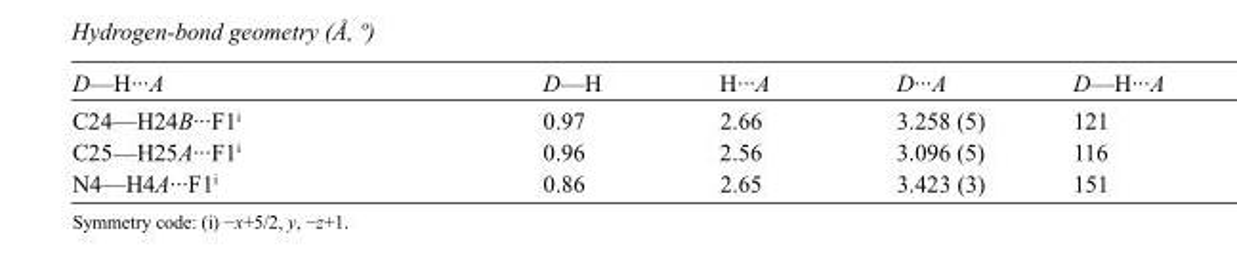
<table><tbody><tr><td>D—H···A</td><td>D—H</td><td>H···A</td><td>D···A</td><td>D—H···A</td></tr><tr><td>C24—H24B···F1<sup>i</sup></td><td>0.97</td><td>2.66</td><td>3.258 (5)</td><td>121</td></tr><tr><td>C25—H25A···F1<sup>i</sup></td><td>0.96</td><td>2.56</td><td>3.096 (5)</td><td>116</td></tr><tr><td>N4—H4A···F1<sup>i</sup></td><td>0.86</td><td>2.65</td><td>3.423 (3)</td><td>151</td></tr></tbody></table>